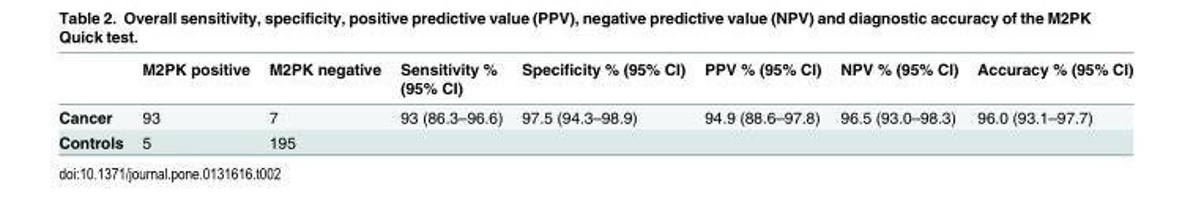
<table><thead><tr><td></td><td>M2PK positive</td><td>M2PK negative</td><td>Sensitivity % (95% CI)</td><td>Specificity % (95% CI)</td><td>PPV % (95% CI)</td><td>NPV % (95% CI)</td><td>Accuracy % (95% CI)</td></tr></thead><tbody><tr><td>Cancer</td><td>93</td><td>7</td><td>93 (86.3–96.6)</td><td>97.5 (94.3–98.9)</td><td>94.9 (88.6–97.8)</td><td>96.5 (93.0–98.3)</td><td>96.0 (93.1–97.7)</td></tr><tr><td>Controls</td><td>5</td><td>195</td><td></td><td></td><td></td><td></td><td></td></tr></tbody></table>